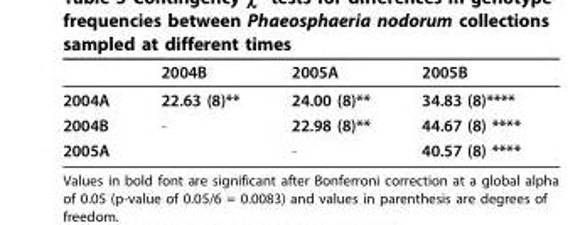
<table><thead><tr><td></td><td>2004B</td><td>2005A</td><td>2005B</td></tr></thead><tbody><tr><td>2004A</td><td>22.63 (8)**</td><td>24.00 (8)**</td><td>34.83 (8)****</td></tr><tr><td>2004B</td><td>-</td><td>22.98 (8)**</td><td>44.67 (8) ****</td></tr><tr><td>2005A</td><td></td><td>-</td><td>40.57 (8) ****</td></tr></tbody></table>